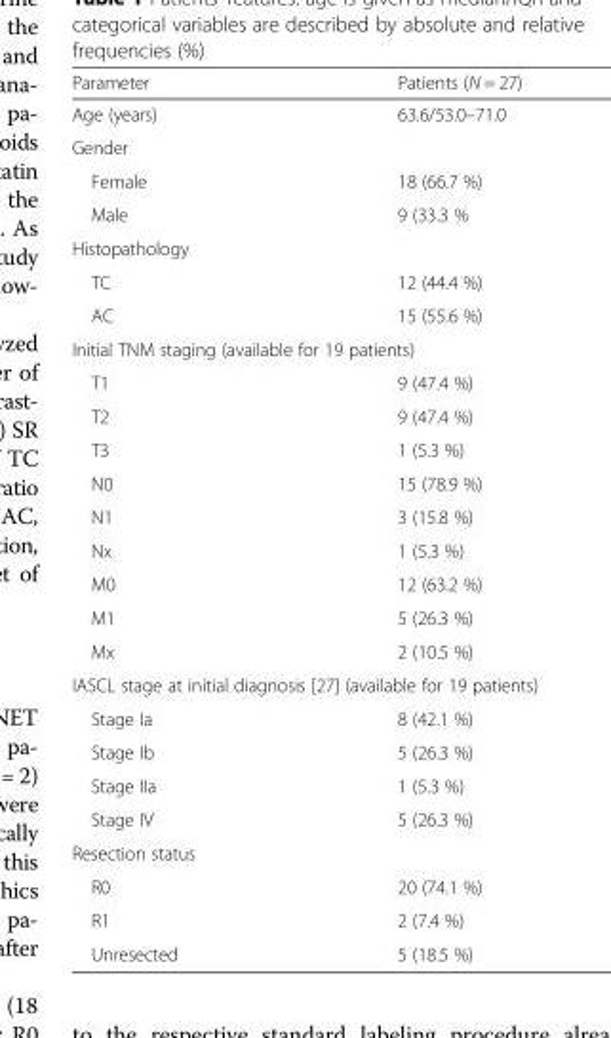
<table><thead><tr><td>Parameter</td><td>Patients (N = 27)</td></tr></thead><tbody><tr><td>Age (years)</td><td>63.6/53.0–71.0</td></tr><tr><td colspan="2">Gender</td></tr><tr><td>Female</td><td>18 (66.7 %)</td></tr><tr><td>Male</td><td>9 (33.3 %</td></tr><tr><td colspan="2">Histopathology</td></tr><tr><td>TC</td><td>12 (44.4 %)</td></tr><tr><td>AC</td><td>15 (55.6 %)</td></tr><tr><td colspan="2">Initial TNM staging (available for 19 patients)</td></tr><tr><td>T1</td><td>9 (47.4 %)</td></tr><tr><td>T2</td><td>9 (47.4 %)</td></tr><tr><td>T3</td><td>1 (5.3 %)</td></tr><tr><td>N0</td><td>15 (78.9 %)</td></tr><tr><td>N1</td><td>3 (15.8 %)</td></tr><tr><td>Nx</td><td>1 (5.3 %)</td></tr><tr><td>M0</td><td>12 (63.2 %)</td></tr><tr><td>M1</td><td>5 (26.3 %)</td></tr><tr><td>Mx</td><td>2 (10.5 %)</td></tr><tr><td colspan="2">IASCL stage at initial diagnosis [27] (available for 19 patients)</td></tr><tr><td>Stage Ia</td><td>8 (42.1 %)</td></tr><tr><td>Stage Ib</td><td>5 (26.3 %)</td></tr><tr><td>Stage IIa</td><td>1 (5.3 %)</td></tr><tr><td>Stage IV</td><td>5 (26.3 %)</td></tr><tr><td colspan="2">Resection status</td></tr><tr><td>R0</td><td>20 (74.1 %)</td></tr><tr><td>R1</td><td>2 (7.4 %)</td></tr><tr><td>Unresected</td><td>5 (18.5 %)</td></tr></tbody></table>